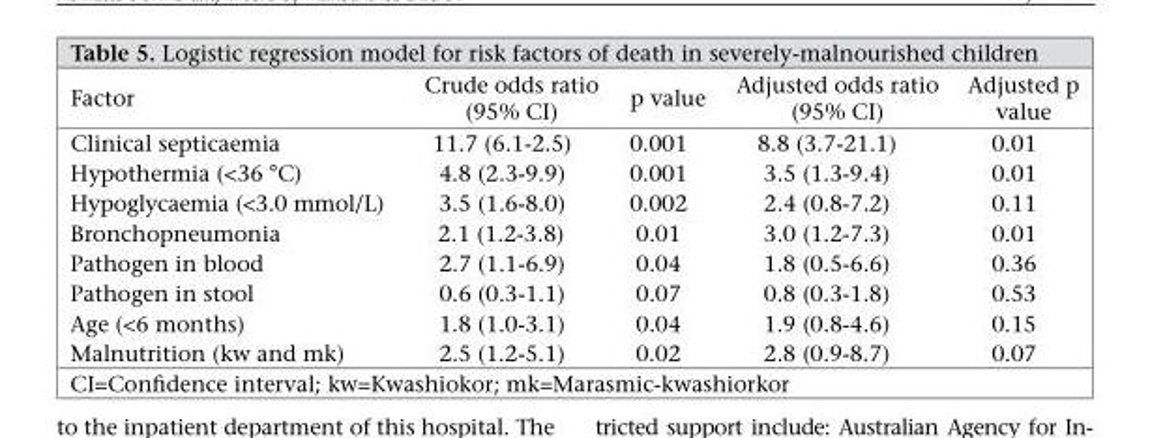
<table><thead><tr><td>Factor</td><td>Crude odds ratio (95% CI)</td><td>p value</td><td>Adjusted odds ratio (95% CI)</td><td>Adjusted p value</td></tr></thead><tbody><tr><td>Clinical septicaemia</td><td>11.7 (6.1-2.5)</td><td>0.001</td><td>8.8 (3.7-21.1)</td><td>0.01</td></tr><tr><td>Hypothermia (&lt;36 °C)</td><td>4.8 (2.3-9.9)</td><td>0.001</td><td>3.5 (1.3-9.4)</td><td>0.01</td></tr><tr><td>Hypoglycaemia (&lt;3.0 mmol/L)</td><td>3.5 (1.6-8.0)</td><td>0.002</td><td>2.4 (0.8-7.2)</td><td>0.11</td></tr><tr><td>Bronchopneumonia</td><td>2.1 (1.2-3.8)</td><td>0.01</td><td>3.0 (1.2-7.3)</td><td>0.01</td></tr><tr><td>Pathogen in blood</td><td>2.7 (1.1-6.9)</td><td>0.04</td><td>1.8 (0.5-6.6)</td><td>0.36</td></tr><tr><td>Pathogen in stool</td><td>0.6 (0.3-1.1)</td><td>0.07</td><td>0.8 (0.3-1.8)</td><td>0.53</td></tr><tr><td>Age (&lt;6 months)</td><td>1.8 (1.0-3.1)</td><td>0.04</td><td>1.9 (0.8-4.6)</td><td>0.15</td></tr><tr><td>Malnutrition (kw and mk)</td><td>2.5 (1.2-5.1)</td><td>0.02</td><td>2.8 (0.9-8.7)</td><td>0.07</td></tr></tbody></table>